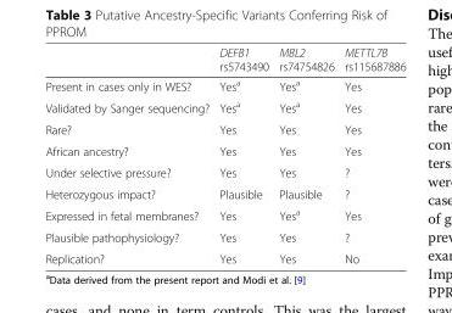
<table><thead><tr><td></td><td>DEFB1 rs5743490</td><td>MBL2 rs74754826</td><td>METTL7B rs115687886</td></tr></thead><tbody><tr><td>Present in cases only in WES?</td><td>Yes<sup>a</sup></td><td>Yes<sup>a</sup></td><td>Yes</td></tr><tr><td>Validated by Sanger sequencing?</td><td>Yes<sup>a</sup></td><td>Yes<sup>a</sup></td><td>Yes</td></tr><tr><td>Rare?</td><td>Yes</td><td>Yes</td><td>Yes</td></tr><tr><td>African ancestry?</td><td>Yes</td><td>Yes</td><td>Yes</td></tr><tr><td>Under selective pressure?</td><td>Yes</td><td>Yes</td><td>?</td></tr><tr><td>Heterozygous impact?</td><td>Plausible</td><td>Plausible</td><td>?</td></tr><tr><td>Expressed in fetal membranes?</td><td>Yes</td><td>Yes<sup>a</sup></td><td>Yes</td></tr><tr><td>Plausible pathophysiology?</td><td>Yes</td><td>Yes</td><td>?</td></tr><tr><td>Replication?</td><td>Yes</td><td>Yes</td><td>No</td></tr></tbody></table>